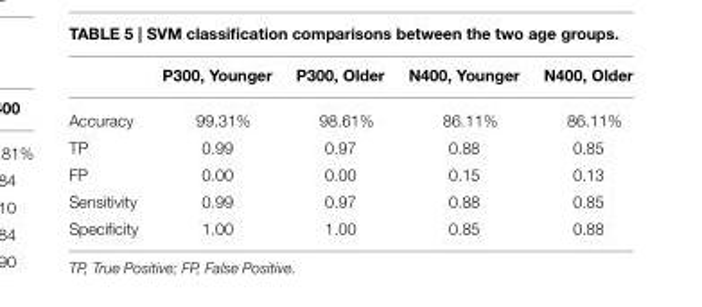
<table><thead><tr><td></td><td>P300, Younger</td><td>P300, Older</td><td>N400, Younger</td><td>N400, Older</td></tr></thead><tbody><tr><td>Accuracy</td><td>99.31%</td><td>98.61%</td><td>86.11%</td><td>86.11%</td></tr><tr><td>TP</td><td>0.99</td><td>0.97</td><td>0.88</td><td>0.85</td></tr><tr><td>FP</td><td>0.00</td><td>0.00</td><td>0.15</td><td>0.13</td></tr><tr><td>Sensitivity</td><td>0.99</td><td>0.97</td><td>0.88</td><td>0.85</td></tr><tr><td>Specificity</td><td>1.00</td><td>1.00</td><td>0.85</td><td>0.88</td></tr></tbody></table>